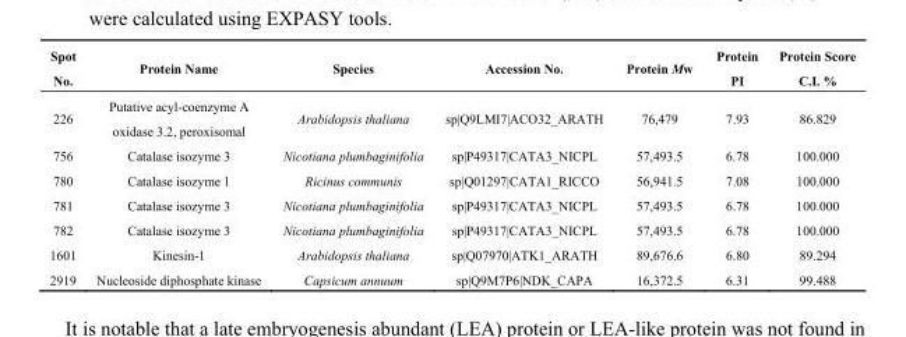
<table><thead><tr><td>Spot No.</td><td>Protein Name</td><td>Species</td><td>Accession No.</td><td>Protein Mw</td><td>Protein PI</td><td>Protein Score C.I. %</td></tr></thead><tbody><tr><td>226</td><td>Putative acyl-coenzyme A oxidase 3.2, peroxisomal</td><td>Arabidopsis thaliana</td><td>sp|Q9LMI7|ACO32_ARATH</td><td>76,479</td><td>7.93</td><td>86.829</td></tr><tr><td>756</td><td>Catalase isozyme 3</td><td>Nicotiana plumbaginifolia</td><td>sp|P49317|CATA3_NICPL</td><td>57,493.5</td><td>6.78</td><td>100.000</td></tr><tr><td>780</td><td>Catalase isozyme 1</td><td>Ricinus communis</td><td>sp|Q01297|CATA1_RICCO</td><td>56,941.5</td><td>7.08</td><td>100.000</td></tr><tr><td>781</td><td>Catalase isozyme 3</td><td>Nicotiana plumbaginifolia</td><td>sp|P49317|CATA3_NICPL</td><td>57,493.5</td><td>6.78</td><td>100.000</td></tr><tr><td>782</td><td>Catalase isozyme 3</td><td>Nicotiana plumbaginifolia</td><td>sp|P49317|CATA3_NICPL</td><td>57,493.5</td><td>6.78</td><td>100.000</td></tr><tr><td>1601</td><td>Kinesin-1</td><td>Arabidopsis thaliana</td><td>sp|Q07970|ATK1_ARATH</td><td>89,676.6</td><td>6.80</td><td>89.294</td></tr><tr><td>2919</td><td>Nucleoside diphosphate kinase</td><td>Capsicum annuum</td><td>sp|Q9M7P6|NDK_CAPA</td><td>16,372.5</td><td>6.31</td><td>99.488</td></tr></tbody></table>